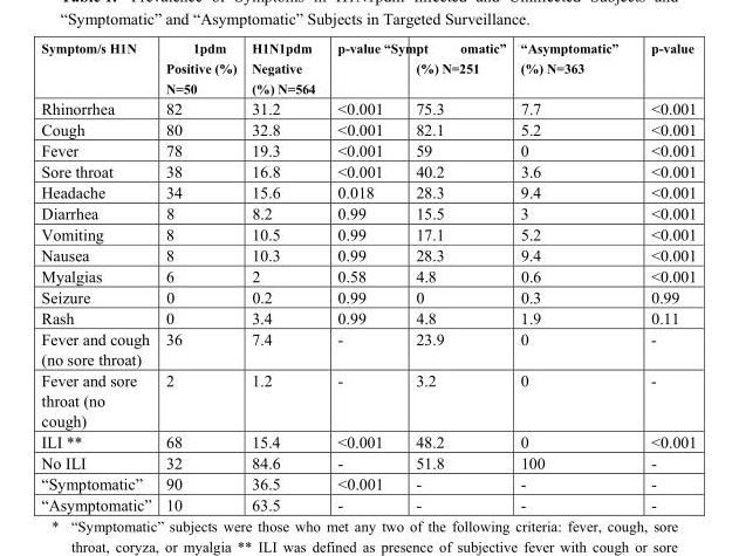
<table><thead><tr><td>Symptom/s H1N</td><td>1pdm Positive (%) N=50</td><td>H1N1pdm Negative (%) N=564</td><td>p-value</td><td>“Sympt omatic” (%) N=251</td><td>“Asymptomatic” (%) N=363</td><td>p-value</td></tr></thead><tbody><tr><td>Rhinorrhea</td><td>82</td><td>31.2</td><td>&lt;0.001</td><td>75.3</td><td>7.7</td><td>&lt;0.001</td></tr><tr><td>Cough</td><td>80</td><td>32.8</td><td>&lt;0.001</td><td>82.1</td><td>5.2</td><td>&lt;0.001</td></tr><tr><td>Fever</td><td>78</td><td>19.3</td><td>&lt;0.001</td><td>59</td><td>0</td><td>&lt;0.001</td></tr><tr><td>Sore throat</td><td>38</td><td>16.8</td><td>&lt;0.001</td><td>40.2</td><td>3.6</td><td>&lt;0.001</td></tr><tr><td>Headache</td><td>34</td><td>15.6</td><td>0.018</td><td>28.3</td><td>9.4</td><td>&lt;0.001</td></tr><tr><td>Diarrhea</td><td>8</td><td>8.2</td><td>0.99</td><td>15.5</td><td>3</td><td>&lt;0.001</td></tr><tr><td>Vomiting</td><td>8</td><td>10.5</td><td>0.99</td><td>17.1</td><td>5.2</td><td>&lt;0.001</td></tr><tr><td>Nausea</td><td>8</td><td>10.3</td><td>0.99</td><td>28.3</td><td>9.4</td><td>&lt;0.001</td></tr><tr><td>Myalgias</td><td>6</td><td>2</td><td>0.58</td><td>4.8</td><td>0.6</td><td>&lt;0.001</td></tr><tr><td>Seizure</td><td>0</td><td>0.2</td><td>0.99</td><td>0</td><td>0.3</td><td>0.99</td></tr><tr><td>Rash</td><td>0</td><td>3.4</td><td>0.99</td><td>4.8</td><td>1.9</td><td>0.11</td></tr><tr><td>Fever and cough (no sore throat)</td><td>36</td><td>7.4</td><td>-</td><td>23.9</td><td>0</td><td>-</td></tr><tr><td>Fever and sore throat (no cough)</td><td>2</td><td>1.2</td><td>-</td><td>3.2</td><td>0</td><td>-</td></tr><tr><td>ILI **</td><td>68</td><td>15.4</td><td>&lt;0.001</td><td>48.2</td><td>0</td><td>&lt;0.001</td></tr><tr><td>No ILI</td><td>32</td><td>84.6</td><td>-</td><td>51.8</td><td>100</td><td>-</td></tr><tr><td>“Symptomatic”</td><td>90</td><td>36.5</td><td>&lt;0.001</td><td>-</td><td>-</td><td>-</td></tr><tr><td>“Asymptomatic”</td><td>10</td><td>63.5</td><td>-</td><td>-</td><td>-</td><td>-</td></tr></tbody></table>